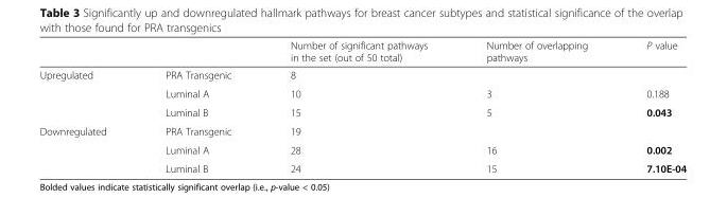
<table><thead><tr><td></td><td></td><td>Number of significant pathways in the set (out of 50 total)</td><td>Number of overlapping pathways</td><td>P value</td></tr></thead><tbody><tr><td rowspan="3">Upregulated</td><td>PRA Transgenic</td><td>8</td><td colspan="2"></td></tr><tr><td>Luminal A</td><td>10</td><td>3</td><td>0.188</td></tr><tr><td>Luminal B</td><td>15</td><td>5</td><td>0.043</td></tr><tr><td rowspan="3">Downregulated</td><td>PRA Transgenic</td><td>19</td><td colspan="2"></td></tr><tr><td>Luminal A</td><td>28</td><td>16</td><td>0.002</td></tr><tr><td>Luminal B</td><td>24</td><td>15</td><td>7.10E-04</td></tr></tbody></table>